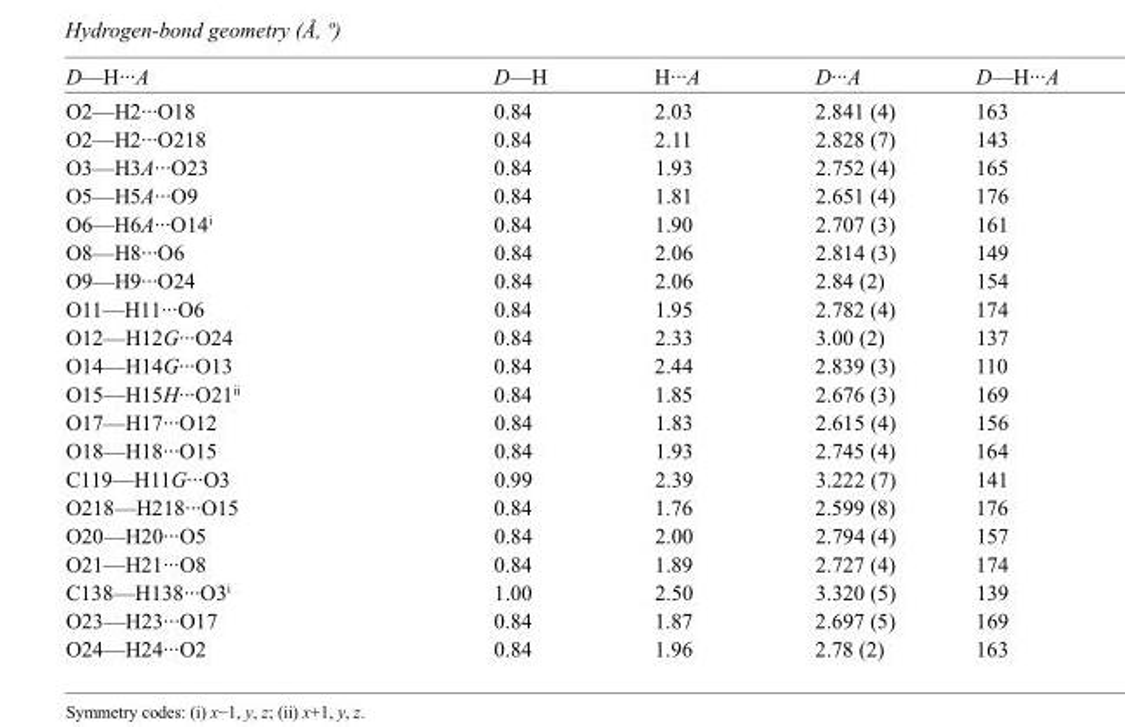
<table><tbody><tr><td>D—H···A</td><td>D—H</td><td>H···A</td><td>D···A</td><td>D—H···A</td></tr><tr><td>O2—H2···O18</td><td>0.84</td><td>2.03</td><td>2.841 (4)</td><td>163</td></tr><tr><td>O2—H2···O218</td><td>0.84</td><td>2.11</td><td>2.828 (7)</td><td>143</td></tr><tr><td>O3—H3A···O23</td><td>0.84</td><td>1.93</td><td>2.752 (4)</td><td>165</td></tr><tr><td>O5—H5A···O9</td><td>0.84</td><td>1.81</td><td>2.651 (4)</td><td>176</td></tr><tr><td>O6—H6A···O14<sup>i</sup></td><td>0.84</td><td>1.90</td><td>2.707 (3)</td><td>161</td></tr><tr><td>O8—H8···O6</td><td>0.84</td><td>2.06</td><td>2.814 (3)</td><td>149</td></tr><tr><td>O9—H9···O24</td><td>0.84</td><td>2.06</td><td>2.84 (2)</td><td>154</td></tr><tr><td>O11—H11···O6</td><td>0.84</td><td>1.95</td><td>2.782 (4)</td><td>174</td></tr><tr><td>O12—H12G···O24</td><td>0.84</td><td>2.33</td><td>3.00 (2)</td><td>137</td></tr><tr><td>O14—H14G···O13</td><td>0.84</td><td>2.44</td><td>2.839 (3)</td><td>110</td></tr><tr><td>O15—H15H···O21<sup>ii</sup></td><td>0.84</td><td>1.85</td><td>2.676 (3)</td><td>169</td></tr><tr><td>O17—H17···O12</td><td>0.84</td><td>1.83</td><td>2.615 (4)</td><td>156</td></tr><tr><td>O18—H18···O15</td><td>0.84</td><td>1.93</td><td>2.745 (4)</td><td>164</td></tr><tr><td>C119—H11G···O3</td><td>0.99</td><td>2.39</td><td>3.222 (7)</td><td>141</td></tr><tr><td>O218—H218···O15</td><td>0.84</td><td>1.76</td><td>2.599 (8)</td><td>176</td></tr><tr><td>O20—H20···O5</td><td>0.84</td><td>2.00</td><td>2.794 (4)</td><td>157</td></tr><tr><td>O21—H21···O8</td><td>0.84</td><td>1.89</td><td>2.727 (4)</td><td>174</td></tr><tr><td>C138—H138···O3<sup>i</sup></td><td>1.00</td><td>2.50</td><td>3.320 (5)</td><td>139</td></tr><tr><td>O23—H23···O17</td><td>0.84</td><td>1.87</td><td>2.697 (5)</td><td>169</td></tr><tr><td>O24—H24···O2</td><td>0.84</td><td>1.96</td><td>2.78 (2)</td><td>163</td></tr></tbody></table>